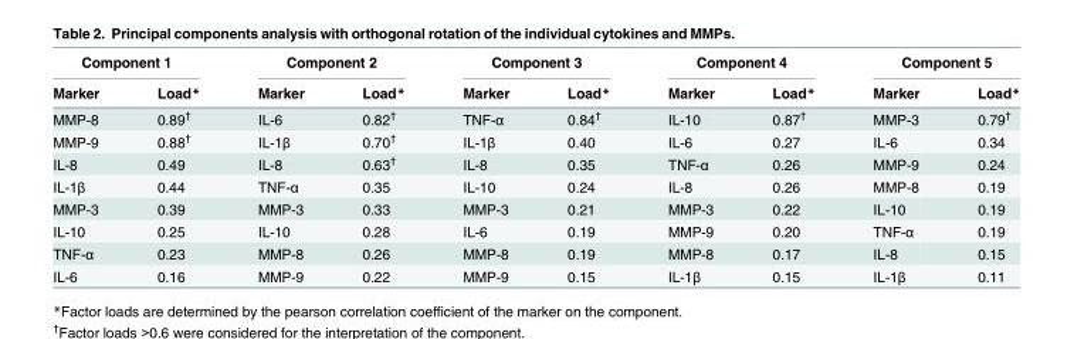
<table><thead><tr><td colspan="2">Component 1</td><td colspan="2">Component 2</td><td colspan="2">Component 3</td><td colspan="2">Component 4</td><td colspan="2">Component 5</td></tr><tr><td>Marker</td><td>Load*</td><td>Marker</td><td>Load*</td><td>Marker</td><td>Load*</td><td>Marker</td><td>Load*</td><td>Marker</td><td>Load*</td></tr></thead><tbody><tr><td>MMP-8</td><td>0.89<sup>†</sup></td><td>IL-6</td><td>0.82<sup>†</sup></td><td>TNF-α</td><td>0.84<sup>†</sup></td><td>IL-10</td><td>0.87<sup>†</sup></td><td>MMP-3</td><td>0.79<sup>†</sup></td></tr><tr><td>MMP-9</td><td>0.88<sup>†</sup></td><td>IL-1β</td><td>0.70<sup>†</sup></td><td>IL-1β</td><td>0.40</td><td>IL-6</td><td>0.27</td><td>IL-6</td><td>0.34</td></tr><tr><td>IL-8</td><td>0.49</td><td>IL-8</td><td>0.63<sup>†</sup></td><td>IL-8</td><td>0.35</td><td>TNF-α</td><td>0.26</td><td>MMP-9</td><td>0.24</td></tr><tr><td>IL-1β</td><td>0.44</td><td>TNF-α</td><td>0.35</td><td>IL-10</td><td>0.24</td><td>IL-8</td><td>0.26</td><td>MMP-8</td><td>0.19</td></tr><tr><td>MMP-3</td><td>0.39</td><td>MMP-3</td><td>0.33</td><td>MMP-3</td><td>0.21</td><td>MMP-3</td><td>0.22</td><td>IL-10</td><td>0.19</td></tr><tr><td>IL-10</td><td>0.25</td><td>IL-10</td><td>0.28</td><td>IL-6</td><td>0.19</td><td>MMP-9</td><td>0.20</td><td>TNF-α</td><td>0.19</td></tr><tr><td>TNF-α</td><td>0.23</td><td>MMP-8</td><td>0.26</td><td>MMP-8</td><td>0.19</td><td>MMP-8</td><td>0.17</td><td>IL-8</td><td>0.15</td></tr><tr><td>IL-6</td><td>0.16</td><td>MMP-9</td><td>0.22</td><td>MMP-9</td><td>0.15</td><td>IL-1β</td><td>0.15</td><td>IL-1β</td><td>0.11</td></tr></tbody></table>